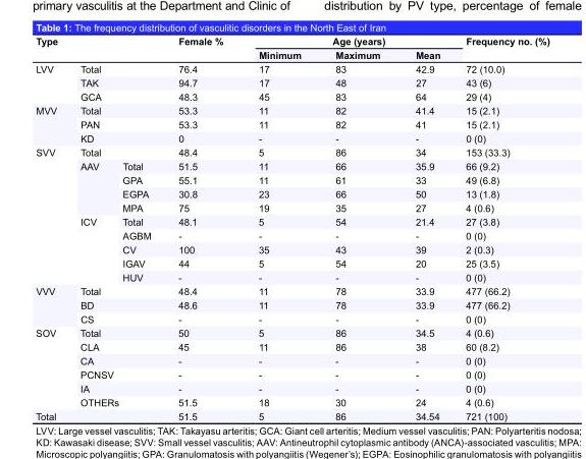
<table><thead><tr><td rowspan="2" colspan="3">Type</td><td rowspan="2">Female %</td><td colspan="3">Age (years)</td><td rowspan="2">Frequency no. (%)</td></tr><tr><td>Minimum</td><td>Maximum</td><td>Mean</td></tr></thead><tbody><tr><td rowspan="3">LVV</td><td colspan="2">Total</td><td>76.4</td><td>17</td><td>83</td><td>42.9</td><td>72 (10.0)</td></tr><tr><td colspan="2">TAK</td><td>94.7</td><td>17</td><td>48</td><td>27</td><td>43 (6)</td></tr><tr><td colspan="2">GCA</td><td>48.3</td><td>45</td><td>83</td><td>64</td><td>29 (4)</td></tr><tr><td rowspan="3">MVV</td><td colspan="2">Total</td><td>53.3</td><td>11</td><td>82</td><td>41.4</td><td>15 (2.1)</td></tr><tr><td colspan="2">PAN</td><td>53.3</td><td>11</td><td>82</td><td>41</td><td>15 (2.1)</td></tr><tr><td colspan="2">KD</td><td>0</td><td>-</td><td>-</td><td>-</td><td>0 (0)</td></tr><tr><td rowspan="10">SVV</td><td colspan="2">Total</td><td>48.4</td><td>5</td><td>86</td><td>34</td><td>153 (33.3)</td></tr><tr><td rowspan="4">AAV</td><td>Total</td><td>51.5</td><td>11</td><td>66</td><td>35.9</td><td>66 (9.2)</td></tr><tr><td>GPA</td><td>55.1</td><td>11</td><td>61</td><td>33</td><td>49 (6.8)</td></tr><tr><td>EGPA</td><td>30.8</td><td>23</td><td>66</td><td>50</td><td>13 (1.8)</td></tr><tr><td>MPA</td><td>75</td><td>19</td><td>35</td><td>27</td><td>4 (0.6)</td></tr><tr><td rowspan="5">ICV</td><td>Total</td><td>48.1</td><td>5</td><td>54</td><td>21.4</td><td>27 (3.8)</td></tr><tr><td>AGBM</td><td>-</td><td>-</td><td>-</td><td>-</td><td>0 (0)</td></tr><tr><td>CV</td><td>100</td><td>35</td><td>43</td><td>39</td><td>2 (0.3)</td></tr><tr><td>IGAV</td><td>44</td><td>5</td><td>54</td><td>20</td><td>25 (3.5)</td></tr><tr><td>HUV</td><td>-</td><td>-</td><td>-</td><td>-</td><td>0 (0)</td></tr><tr><td rowspan="3">VVV</td><td colspan="2">Total</td><td>48.4</td><td>11</td><td>78</td><td>33.9</td><td>477 (66.2)</td></tr><tr><td colspan="2">BD</td><td>48.6</td><td>11</td><td>78</td><td>33.9</td><td>477 (66.2)</td></tr><tr><td colspan="2">CS</td><td>-</td><td>-</td><td>-</td><td>-</td><td>0 (0)</td></tr><tr><td rowspan="6">SOV</td><td colspan="2">Total</td><td>50</td><td>5</td><td>86</td><td>34.5</td><td>4 (0.6)</td></tr><tr><td colspan="2">CLA</td><td>45</td><td>11</td><td>86</td><td>38</td><td>60 (8.2)</td></tr><tr><td colspan="2">CA</td><td>-</td><td>-</td><td>-</td><td>-</td><td>0 (0)</td></tr><tr><td colspan="2">PCNSV</td><td>-</td><td>-</td><td>-</td><td>-</td><td>0 (0)</td></tr><tr><td colspan="2">IA</td><td>-</td><td>-</td><td>-</td><td>-</td><td>0 (0)</td></tr><tr><td colspan="2">OTHERs</td><td>51.5</td><td>18</td><td>30</td><td>24</td><td>4 (0.6)</td></tr><tr><td colspan="3">Total</td><td>51.5</td><td>5</td><td>86</td><td>34.54</td><td>721 (100)</td></tr></tbody></table>